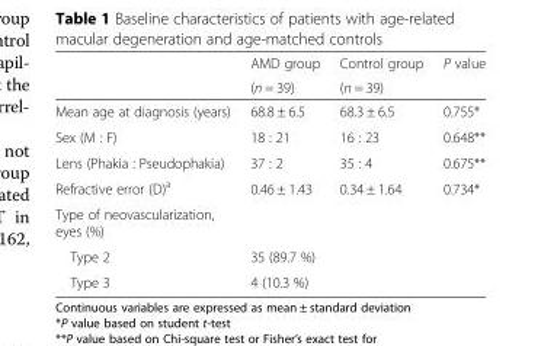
<table><thead><tr><td rowspan="2"></td><td rowspan="2">AMD group (n = 39)</td><td rowspan="2">Control group (n = 39)</td><td rowspan="2">P value</td></tr><tr></tr></thead><tbody><tr><td>Mean age at diagnosis (years)</td><td>68.8 ± 6.5</td><td>68.3 ± 6.5</td><td>0.755*</td></tr><tr><td>Sex (M : F)</td><td>18 : 21</td><td>16 : 23</td><td>0.648**</td></tr><tr><td>Lens (Phakia : Pseudophakia)</td><td>37 : 2</td><td>35 : 4</td><td>0.675**</td></tr><tr><td>Refractive error (D)<sup>a</sup></td><td>0.46 ± 1.43</td><td>0.34 ± 1.64</td><td>0.734*</td></tr><tr><td colspan="4">Type of neovascularization, eyes (%)</td></tr><tr><td>Type 2</td><td>35 (89.7 %)</td><td></td><td></td></tr><tr><td>Type 3</td><td>4 (10.3 %)</td><td></td><td></td></tr></tbody></table>